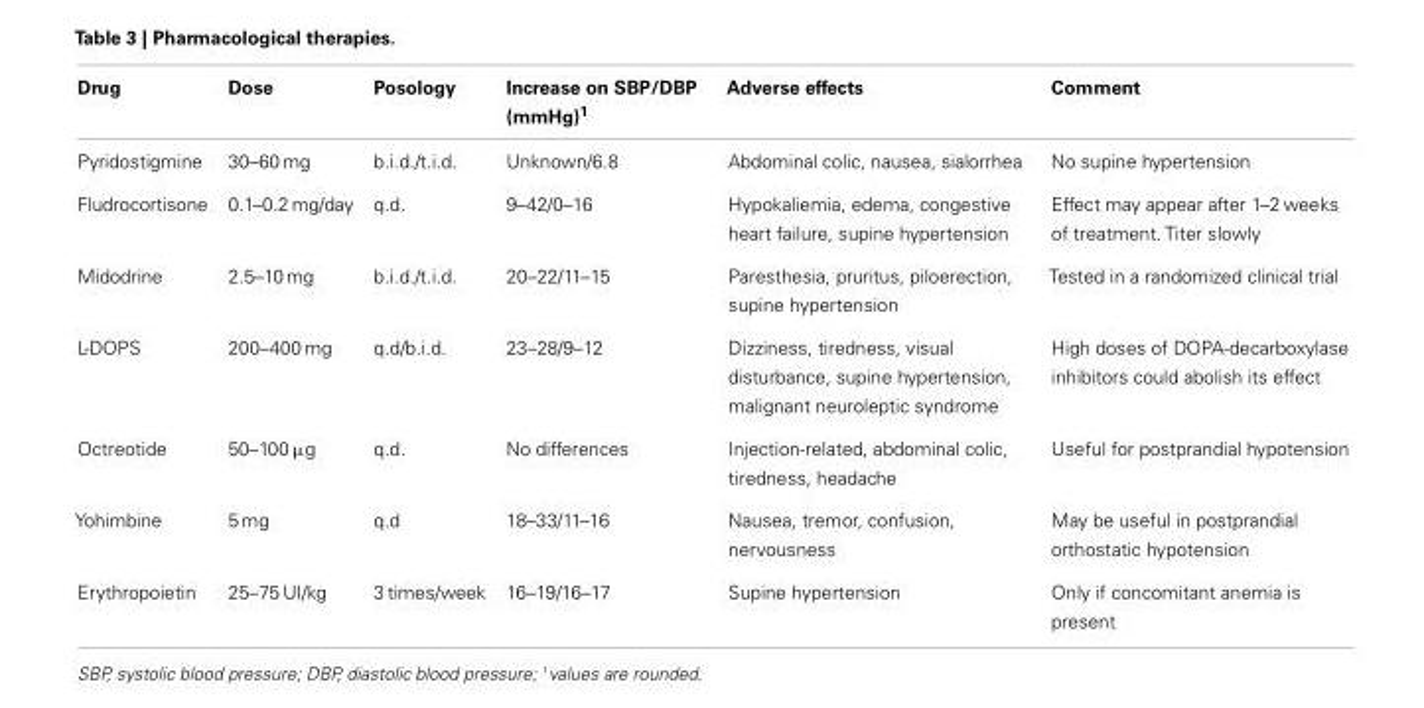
<table><thead><tr><td>Drug</td><td>Dose</td><td>Posology</td><td>Increase on SBP/DBP (mmHg)<sup>1</sup></td><td>Adverse effects</td><td>Comment</td></tr></thead><tbody><tr><td>Pyridostigmine</td><td>30–60 mg</td><td>b.i.d./t.i.d.</td><td>Unknown/6.8</td><td>Abdominal colic, nausea, sialorrhea</td><td>No supine hypertension</td></tr><tr><td>Fludrocortisone</td><td>0.1–0.2 mg/day</td><td>q.d.</td><td>9–42/0–16</td><td>Hypokaliemia, edema, congestive heart failure, supine hypertension</td><td>Effect may appear after 1–2 weeks of treatment. Titer slowly</td></tr><tr><td>Midodrine</td><td>2.5–10 mg</td><td>b.i.d./t.i.d.</td><td>20–22/11–15</td><td>Paresthesia, pruritus, piloerection, supine hypertension</td><td>Tested in a randomized clinical trial</td></tr><tr><td>L-DOPS</td><td>200–400 mg</td><td>q.d/b.i.d.</td><td>23–28/9–12</td><td>Dizziness, tiredness, visual disturbance, supine hypertension, malignant neuroleptic syndrome</td><td>High doses of DOPA-decarboxylase inhibitors could abolish its effect</td></tr><tr><td>Octreotide</td><td>50–100 µg</td><td>q.d.</td><td>No differences</td><td>Injection-related, abdominal colic, tiredness, headache</td><td>Useful for postprandial hypotension</td></tr><tr><td>Yohimbine</td><td>5 mg</td><td>q.d</td><td>18–33/11–16</td><td>Nausea, tremor, confusion, nervousness</td><td>May be useful in postprandial orthostatic hypotension</td></tr><tr><td>Erythropoietin</td><td>25–75 UI/kg</td><td>3 times/week</td><td>16–19/16–17</td><td>Supine hypertension</td><td>Only if concomitant anemia is present</td></tr></tbody></table>